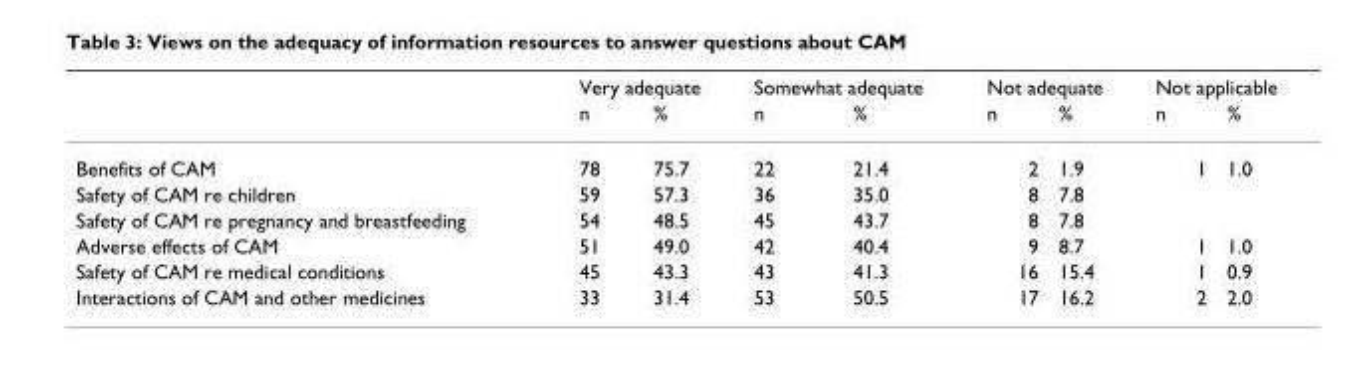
<table><thead><tr><td rowspan="2"></td><td colspan="2">Very adequate</td><td colspan="2">Somewhat adequate</td><td colspan="2">Not adequate</td><td colspan="2">Not applicable</td></tr><tr><td>n</td><td>%</td><td>n</td><td>%</td><td>n</td><td>%</td><td>n</td><td>%</td></tr></thead><tbody><tr><td>Benefits of CAM</td><td>78</td><td>75.7</td><td>22</td><td>21.4</td><td>2</td><td>1.9</td><td>1</td><td>1.0</td></tr><tr><td>Safety of CAM re children</td><td>59</td><td>57.3</td><td>36</td><td>35.0</td><td>8</td><td>7.8</td><td></td><td></td></tr><tr><td>Safety of CAM re pregnancy and breastfeeding</td><td>54</td><td>48.5</td><td>45</td><td>43.7</td><td>8</td><td>7.8</td><td></td><td></td></tr><tr><td>Adverse effects of CAM</td><td>51</td><td>49.0</td><td>42</td><td>40.4</td><td>9</td><td>8.7</td><td>1</td><td>1.0</td></tr><tr><td>Safety of CAM re medical conditions</td><td>45</td><td>43.3</td><td>43</td><td>41.3</td><td>16</td><td>15.4</td><td>1</td><td>0.9</td></tr><tr><td>Interactions of CAM and other medicines</td><td>33</td><td>31.4</td><td>53</td><td>50.5</td><td>17</td><td>16.2</td><td>2</td><td>2.0</td></tr></tbody></table>